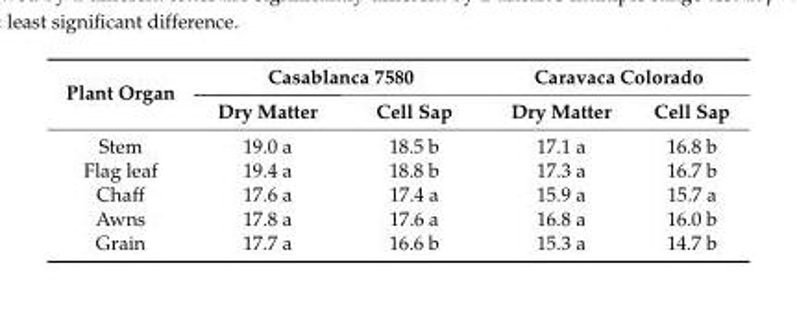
<table><thead><tr><td rowspan="2">Plant Organ</td><td colspan="2">Casablanca 7580</td><td colspan="2">Caravaca Colorado</td></tr><tr><td>Dry Matter</td><td>Cell Sap</td><td>Dry Matter</td><td>Cell Sap</td></tr></thead><tbody><tr><td>Stem</td><td>19.0 a</td><td>18.5 b</td><td>17.1 a</td><td>16.8 b</td></tr><tr><td>Flag leaf</td><td>19.4 a</td><td>18.8 b</td><td>17.3 a</td><td>16.7 b</td></tr><tr><td>Chaff</td><td>17.6 a</td><td>17.4 a</td><td>15.9 a</td><td>15.7 a</td></tr><tr><td>Awns</td><td>17.8 a</td><td>17.6 a</td><td>16.8 a</td><td>16.0 b</td></tr><tr><td>Grain</td><td>17.7 a</td><td>16.6 b</td><td>15.3 a</td><td>14.7 b</td></tr></tbody></table>